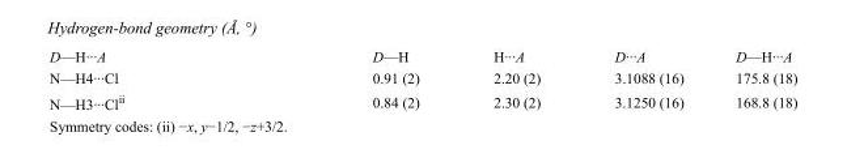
<table><tbody><tr><td>D—H···A</td><td>D—H</td><td>H···A</td><td>D···A</td><td>D—H···A</td></tr><tr><td>N—H4···Cl</td><td>0.91 (2)</td><td>2.20 (2)</td><td>3.1088 (16)</td><td>175.8 (18)</td></tr><tr><td>N—H3···Cl<sup>ii</sup></td><td>0.84 (2)</td><td>2.30 (2)</td><td>3.1250 (16)</td><td>168.8 (18)</td></tr></tbody></table>